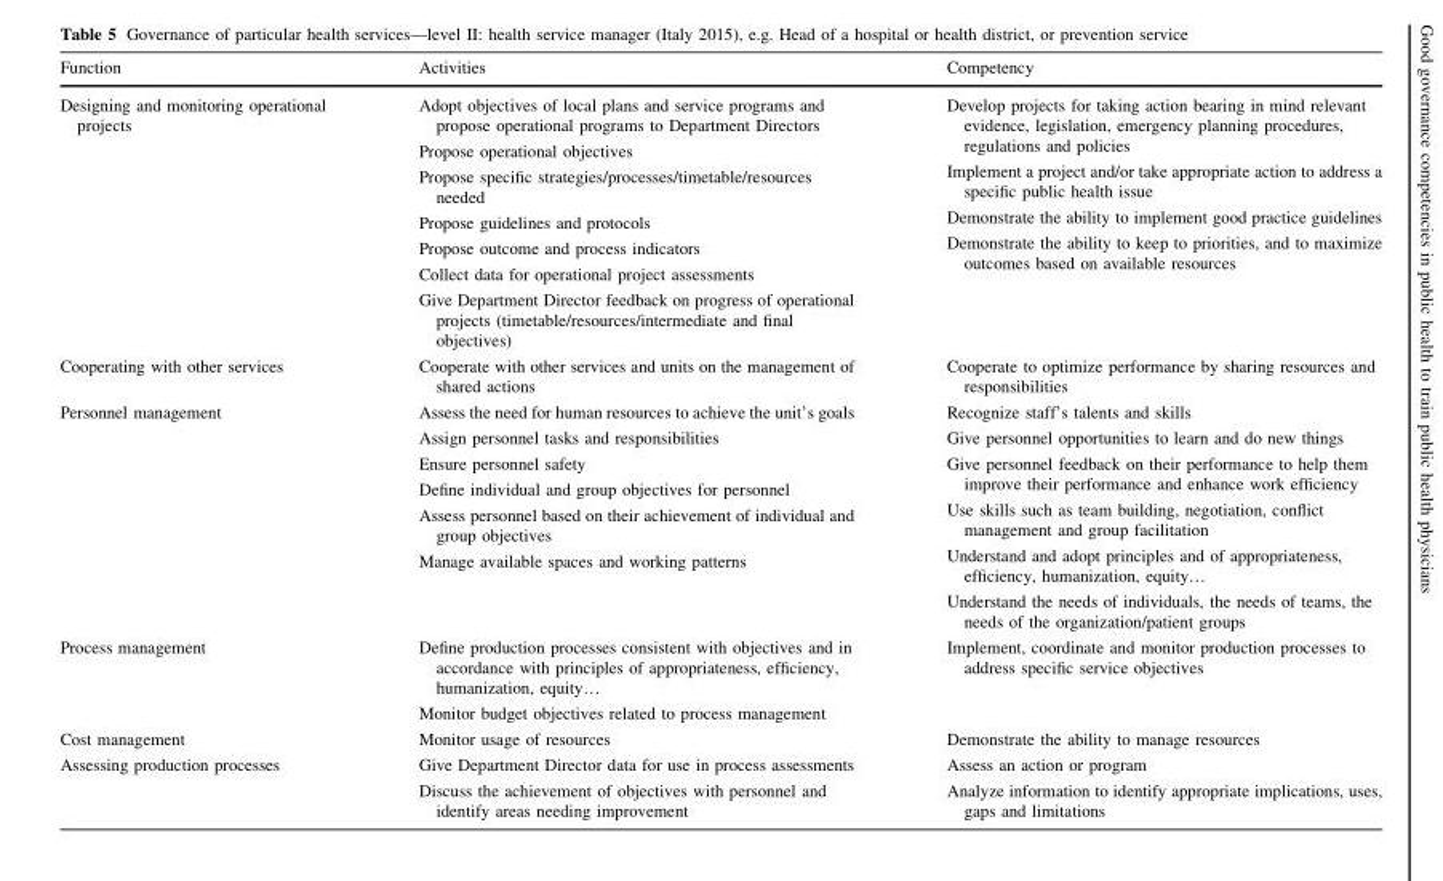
<table><thead><tr><td>Function</td><td>Activities</td><td>Competency</td></tr></thead><tbody><tr><td>Designing and monitoring operational projects</td><td>Adopt objectives of local plans and service programs and propose operational programs to Department Directors Propose operational objectives Propose specific strategies/processes/timetable/resources needed Propose guidelines and protocols Propose outcome and process indicators Collect data for operational project assessments Give Department Director feedback on progress of operational projects (timetable/resources/intermediate and final objectives)</td><td>Develop projects for taking action bearing in mind relevant evidence, legislation, emergency planning procedures, regulations and policies Implement a project and/or take appropriate action to address a specific public health issue Demonstrate the ability to implement good practice guidelines Demonstrate the ability to keep to priorities, and to maximize outcomes based on available resources</td></tr><tr><td>Cooperating with other services</td><td>Cooperate with other services and units on the management of shared actions</td><td>Cooperate to optimize performance by sharing resources and responsibilities</td></tr><tr><td>Personnel management</td><td>Assess the need for human resources to achieve the unit’s goals Assign personnel tasks and responsibilities Ensure personnel safety Define individual and group objectives for personnel Assess personnel based on their achievement of individual and group objectives Manage available spaces and working patterns</td><td>Recognize staff’s talents and skills Give personnel opportunities to learn and do new things Give personnel feedback on their performance to help them improve their performance and enhance work efficiency Use skills such as team building, negotiation, conflict management and group facilitation Understand and adopt principles and of appropriateness, efficiency, humanization, equity… Understand the needs of individuals, the needs of teams, the needs of the organization/patient groups</td></tr><tr><td>Process management</td><td>Define production processes consistent with objectives and in accordance with principles of appropriateness, efficiency, humanization, equity… Monitor budget objectives related to process management</td><td>Implement, coordinate and monitor production processes to address specific service objectives</td></tr><tr><td>Cost management</td><td>Monitor usage of resources</td><td>Demonstrate the ability to manage resources</td></tr><tr><td>Assessing production processes</td><td>Give Department Director data for use in process assessments Discuss the achievement of objectives with personnel and identify areas needing improvement</td><td>Assess an action or program Analyze information to identify appropriate implications, uses, gaps and limitations</td></tr></tbody></table>